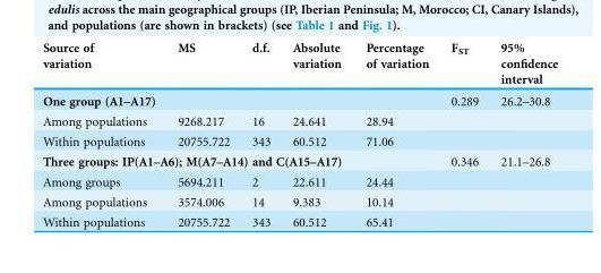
<table><thead><tr><td>Source of variation</td><td>MS</td><td>d.f.</td><td>Absolute variation</td><td>Percentage of variation</td><td>F<sub>ST</sub></td><td>95% confidence interval</td></tr></thead><tbody><tr><td>One group (A1–A17)</td><td></td><td></td><td></td><td></td><td>0.289</td><td>26.2–30.8</td></tr><tr><td>Among populations</td><td>9268.217</td><td>16</td><td>24.641</td><td>28.94</td><td></td><td></td></tr><tr><td>Within populations</td><td>20755.722</td><td>343</td><td>60.512</td><td>71.06</td><td></td><td></td></tr><tr><td colspan="5">Three groups: IP(A1–A6); M(A7–A14) and C(A15–A17)</td><td>0.346</td><td>21.1–26.8</td></tr><tr><td>Among groups</td><td>5694.211</td><td>2</td><td>22.611</td><td>24.44</td><td></td><td></td></tr><tr><td>Among populations</td><td>3574.006</td><td>14</td><td>9.383</td><td>10.14</td><td></td><td></td></tr><tr><td>Within populations</td><td>20755.722</td><td>343</td><td>60.512</td><td>65.41</td><td></td><td></td></tr></tbody></table>